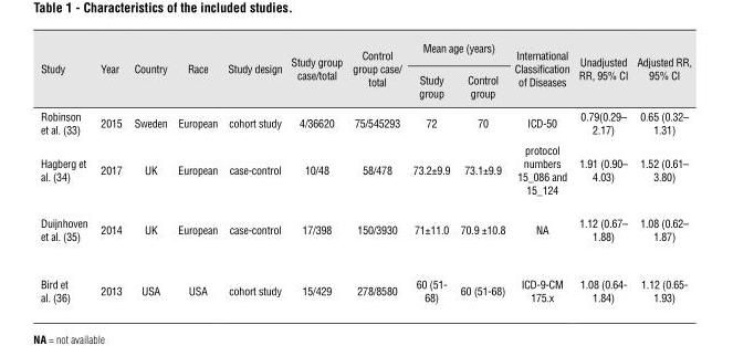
<table><thead><tr><td rowspan="2">Study</td><td rowspan="2">Year</td><td rowspan="2">Country</td><td rowspan="2">Race</td><td rowspan="2">Study design</td><td rowspan="2">Study group case/total</td><td rowspan="2">Control group case/ total</td><td colspan="2">Mean age (years)</td><td rowspan="2">International Classification of Diseases</td><td rowspan="2">Unadjusted RR, 95% CI</td><td rowspan="2">Adjusted RR, 95% CI</td></tr><tr><td>Study group</td><td>Control group</td></tr></thead><tbody><tr><td>Robinson et al. (33)</td><td>2015</td><td>Sweden</td><td>European</td><td>cohort study</td><td>4/36620</td><td>75/545293</td><td>72</td><td>70</td><td>ICD-50</td><td>0.79(0.29– 2.17)</td><td>0.65 (0.32– 1.31)</td></tr><tr><td>Hagberg et al. (34)</td><td>2017</td><td>UK</td><td>European</td><td>case-control</td><td>10/48</td><td>58/478</td><td>73.2±9.9</td><td>73.1±9.9</td><td>protocol numbers 15_086 and 15_124</td><td>1.91 (0.90– 4.03)</td><td>1.52 (0.61– 3.80)</td></tr><tr><td>Duijnhoven et al. (35)</td><td>2014</td><td>UK</td><td>European</td><td>case-control</td><td>17/398</td><td>150/3930</td><td>71±11.0</td><td>70.9 ±10.8</td><td>NA</td><td>1.12 (0.67– 1.88)</td><td>1.08 (0.62– 1.87)</td></tr><tr><td>Bird et al. (36)</td><td>2013</td><td>USA</td><td>USA</td><td>cohort study</td><td>15/429</td><td>278/8580</td><td>60 (51- 68)</td><td>60 (51-68)</td><td>ICD-9-CM 175.x</td><td>1.08 (0.64- 1.84)</td><td>1.12 (0.65- 1.93)</td></tr></tbody></table>